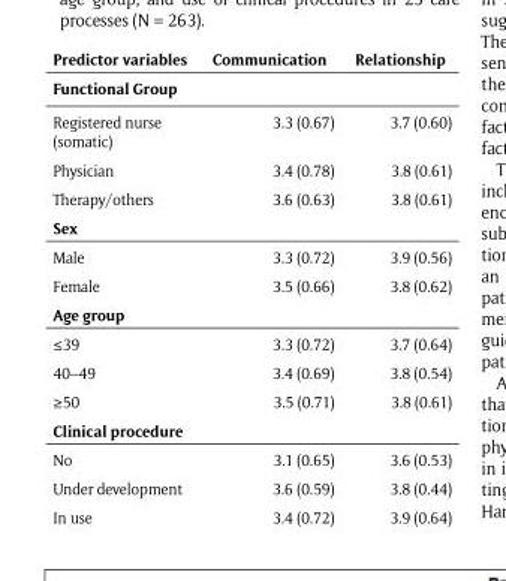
<table><thead><tr><td>Predictor variables</td><td>Communication</td><td>Relationship</td></tr></thead><tbody><tr><td colspan="3">Functional Group</td></tr><tr><td>Registered nurse (somatic)</td><td>3.3 (0.67)</td><td>3.7 (0.60)</td></tr><tr><td>Physician</td><td>3.4 (0.78)</td><td>3.8 (0.61)</td></tr><tr><td>Therapy/others</td><td>3.6 (0.63)</td><td>3.8 (0.61)</td></tr><tr><td colspan="3">Sex</td></tr><tr><td>Male</td><td>3.3 (0.72)</td><td>3.9 (0.56)</td></tr><tr><td>Female</td><td>3.5 (0.66)</td><td>3.8 (0.62)</td></tr><tr><td colspan="3">Age group</td></tr><tr><td>≤39</td><td>3.3 (0.72)</td><td>3.7 (0.64)</td></tr><tr><td>40–49</td><td>3.4 (0.69)</td><td>3.8 (0.54)</td></tr><tr><td>≥50</td><td>3.5 (0.71)</td><td>3.8 (0.61)</td></tr><tr><td colspan="3">Clinical procedure</td></tr><tr><td>No</td><td>3.1 (0.65)</td><td>3.6 (0.53)</td></tr><tr><td>Under development</td><td>3.6 (0.59)</td><td>3.8 (0.44)</td></tr><tr><td>In use</td><td>3.4 (0.72)</td><td>3.9 (0.64)</td></tr></tbody></table>